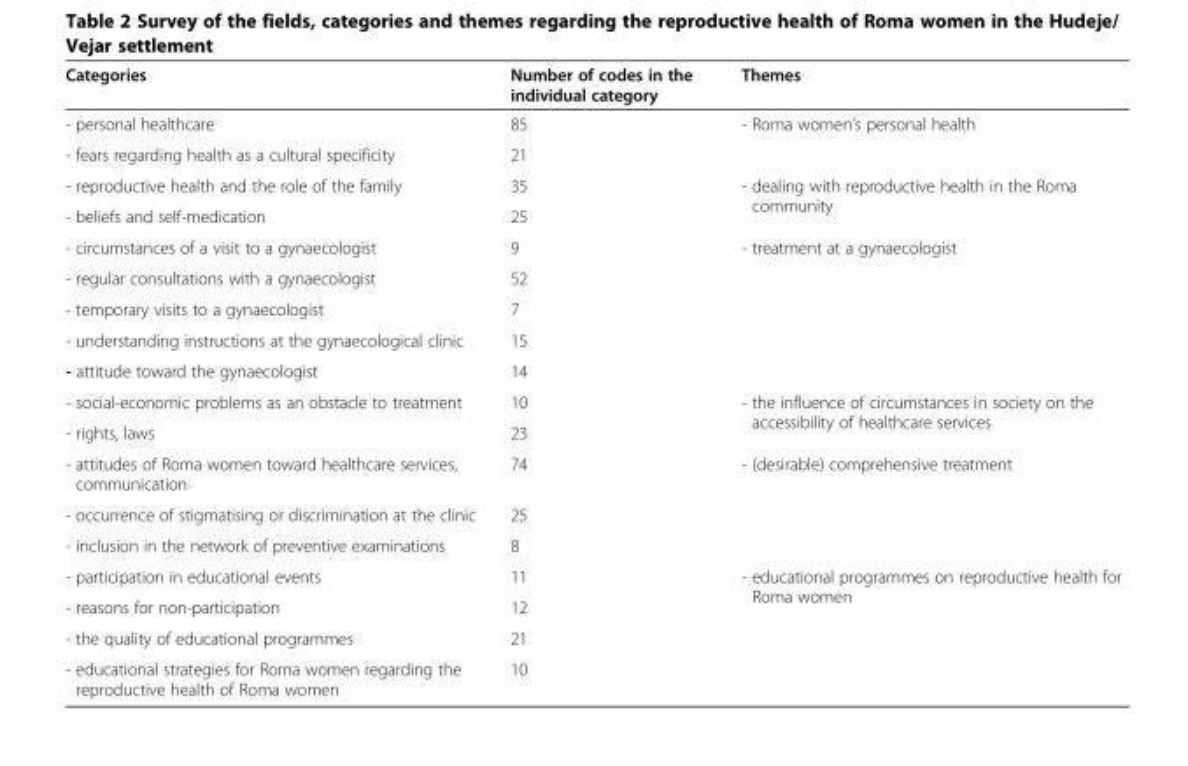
<table><thead><tr><td>Categories</td><td>Number of codes in the individual category</td><td>Themes</td></tr></thead><tbody><tr><td>- personal healthcare</td><td>85</td><td rowspan="2">- Roma women’s personal health</td></tr><tr><td>- fears regarding health as a cultural specificity</td><td>21</td></tr><tr><td>- reproductive health and the role of the family</td><td>35</td><td rowspan="2">- dealing with reproductive health in the Roma community</td></tr><tr><td>- beliefs and self-medication</td><td>25</td></tr><tr><td>- circumstances of a visit to a gynaecologist</td><td>9</td><td rowspan="5">- treatment at a gynaecologist</td></tr><tr><td>- regular consultations with a gynaecologist</td><td>52</td></tr><tr><td>- temporary visits to a gynaecologist</td><td>7</td></tr><tr><td>- understanding instructions at the gynaecological clinic</td><td>15</td></tr><tr><td>- attitude toward the gynaecologist</td><td>14</td></tr><tr><td>- social-economic problems as an obstacle to treatment</td><td>10</td><td rowspan="2">- the influence of circumstances in society on the accessibility of healthcare services</td></tr><tr><td>- rights, laws</td><td>23</td></tr><tr><td>- attitudes of Roma women toward healthcare services, communication</td><td>74</td><td rowspan="3">- (desirable) comprehensive treatment</td></tr><tr><td>- occurrence of stigmatising or discrimination at the clinic</td><td>25</td></tr><tr><td>- inclusion in the network of preventive examinations</td><td>8</td></tr><tr><td>- participation in educational events</td><td>11</td><td rowspan="4">- educational programmes on reproductive health for Roma women</td></tr><tr><td>- reasons for non-participation</td><td>12</td></tr><tr><td>- the quality of educational programmes</td><td>21</td></tr><tr><td>- educational strategies for Roma women regarding the reproductive health of Roma women</td><td>10</td></tr></tbody></table>